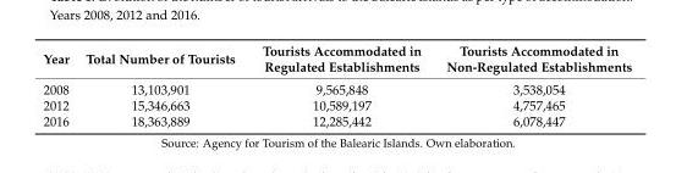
<table><thead><tr><td>Year</td><td>Total Number of Tourists</td><td>Tourists Accommodated in Regulated Establishments</td><td>Tourists Accommodated in Non-Regulated Establishments</td></tr></thead><tbody><tr><td>2008</td><td>13,103,901</td><td>9,565,848</td><td>3,538,054</td></tr><tr><td>2012</td><td>15,346,663</td><td>10,589,197</td><td>4,757,465</td></tr><tr><td>2016</td><td>18,363,889</td><td>12,285,442</td><td>6,078,447</td></tr></tbody></table>